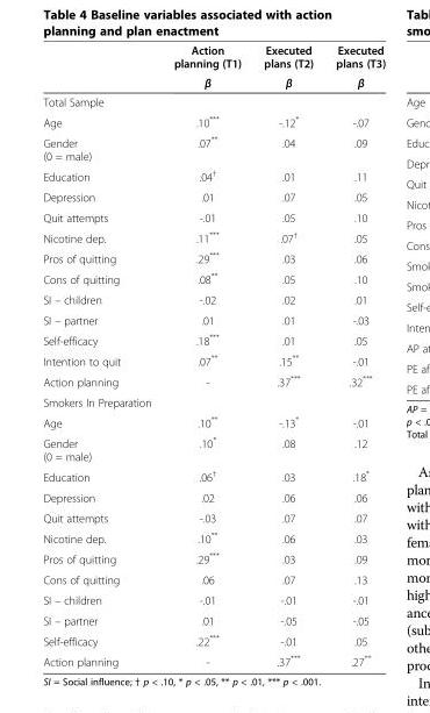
<table><thead><tr><td rowspan="2"></td><td rowspan="2">Action planning (T1) β</td><td rowspan="2">Executed plans (T2) β</td><td rowspan="2">Executed plans (T3) β</td></tr><tr></tr></thead><tbody><tr><td colspan="4">Total Sample</td></tr><tr><td>Age</td><td>.10***</td><td>-.12*</td><td>-.07</td></tr><tr><td>Gender (0 = male)</td><td>.07**</td><td>.04</td><td>.09</td></tr><tr><td>Education</td><td>.04<sup>†</sup></td><td>.01</td><td>.11</td></tr><tr><td>Depression</td><td>.01</td><td>.07</td><td>.05</td></tr><tr><td>Quit attempts</td><td>-.01</td><td>.05</td><td>.10</td></tr><tr><td>Nicotine dep.</td><td>.11***</td><td>.07<sup>†</sup></td><td>.05</td></tr><tr><td>Pros of quitting</td><td>.29***</td><td>.03</td><td>.06</td></tr><tr><td>Cons of quitting</td><td>.08**</td><td>.05</td><td>.10</td></tr><tr><td>SI – children</td><td>-.02</td><td>.02</td><td>.01</td></tr><tr><td>SI – partner</td><td>.01</td><td>.01</td><td>-.03</td></tr><tr><td>Self-efficacy</td><td>.18***</td><td>.01</td><td>.05</td></tr><tr><td>Intention to quit</td><td>.07**</td><td>.15**</td><td>-.01</td></tr><tr><td>Action planning</td><td>-</td><td>.37***</td><td>.32***</td></tr><tr><td colspan="4">Smokers In Preparation</td></tr><tr><td>Age</td><td>.10**</td><td>-.13*</td><td>-.01</td></tr><tr><td>Gender (0 = male)</td><td>.10*</td><td>.08</td><td>.12</td></tr><tr><td>Education</td><td>.06<sup>†</sup></td><td>.03</td><td>.18*</td></tr><tr><td>Depression</td><td>.02</td><td>.06</td><td>.06</td></tr><tr><td>Quit attempts</td><td>-.03</td><td>.07</td><td>.07</td></tr><tr><td>Nicotine dep.</td><td>.10**</td><td>.06</td><td>.03</td></tr><tr><td>Pros of quitting</td><td>.29***</td><td>.03</td><td>.09</td></tr><tr><td>Cons of quitting</td><td>.06</td><td>.07</td><td>.13</td></tr><tr><td>SI – children</td><td>-.01</td><td>-.01</td><td>-.01</td></tr><tr><td>SI – partner</td><td>.01</td><td>-.05</td><td>-.05</td></tr><tr><td>Self-efficacy</td><td>.22***</td><td>-.01</td><td>.05</td></tr><tr><td>Action planning</td><td>-</td><td>.37***</td><td>.27**</td></tr></tbody></table>